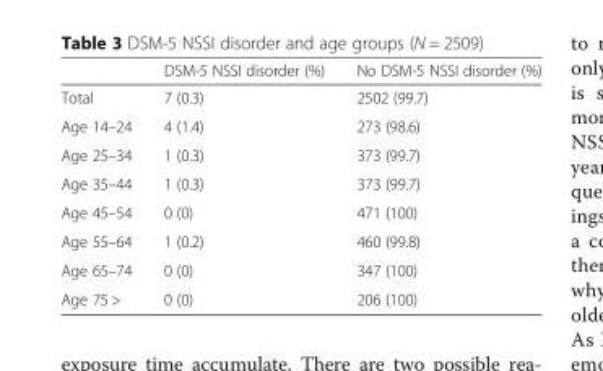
<table><thead><tr><td></td><td>DSM-5 NSSI disorder (%)</td><td>No DSM-5 NSSI disorder (%)</td></tr></thead><tbody><tr><td>Total</td><td>7 (0.3)</td><td>2502 (99.7)</td></tr><tr><td>Age 14–24</td><td>4 (1.4)</td><td>273 (98.6)</td></tr><tr><td>Age 25–34</td><td>1 (0.3)</td><td>373 (99.7)</td></tr><tr><td>Age 35–44</td><td>1 (0.3)</td><td>373 (99.7)</td></tr><tr><td>Age 45–54</td><td>0 (0)</td><td>471 (100)</td></tr><tr><td>Age 55–64</td><td>1 (0.2)</td><td>460 (99.8)</td></tr><tr><td>Age 65–74</td><td>0 (0)</td><td>347 (100)</td></tr><tr><td>Age 75 &gt;</td><td>0 (0)</td><td>206 (100)</td></tr></tbody></table>